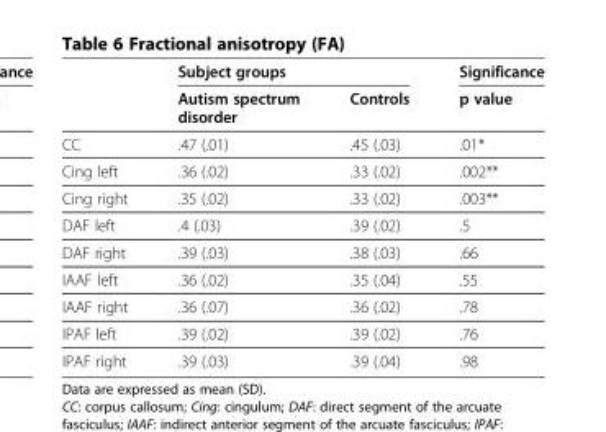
<table><thead><tr><td rowspan="2"></td><td colspan="2">Subject groups</td><td rowspan="2">Significance p value</td></tr><tr><td>Autism spectrum disorder</td><td>Controls</td></tr></thead><tbody><tr><td>CC</td><td>.47 (.01)</td><td>.45 (.03)</td><td>.01*</td></tr><tr><td>Cing left</td><td>.36 (.02)</td><td>.33 (.02)</td><td>.002**</td></tr><tr><td>Cing right</td><td>.35 (.02)</td><td>.33 (.02)</td><td>.003**</td></tr><tr><td>DAF left</td><td>.4 (.03)</td><td>.39 (.02)</td><td>.5</td></tr><tr><td>DAF right</td><td>.39 (.03)</td><td>.38 (.03)</td><td>.66</td></tr><tr><td>IAAF left</td><td>.36 (.02)</td><td>.35 (.04)</td><td>.55</td></tr><tr><td>IAAF right</td><td>.36 (.07)</td><td>.36 (.02)</td><td>.78</td></tr><tr><td>IPAF left</td><td>.39 (.02)</td><td>.39 (.02)</td><td>.76</td></tr><tr><td>IPAF right</td><td>.39 (.03)</td><td>.39 (.04)</td><td>.98</td></tr></tbody></table>